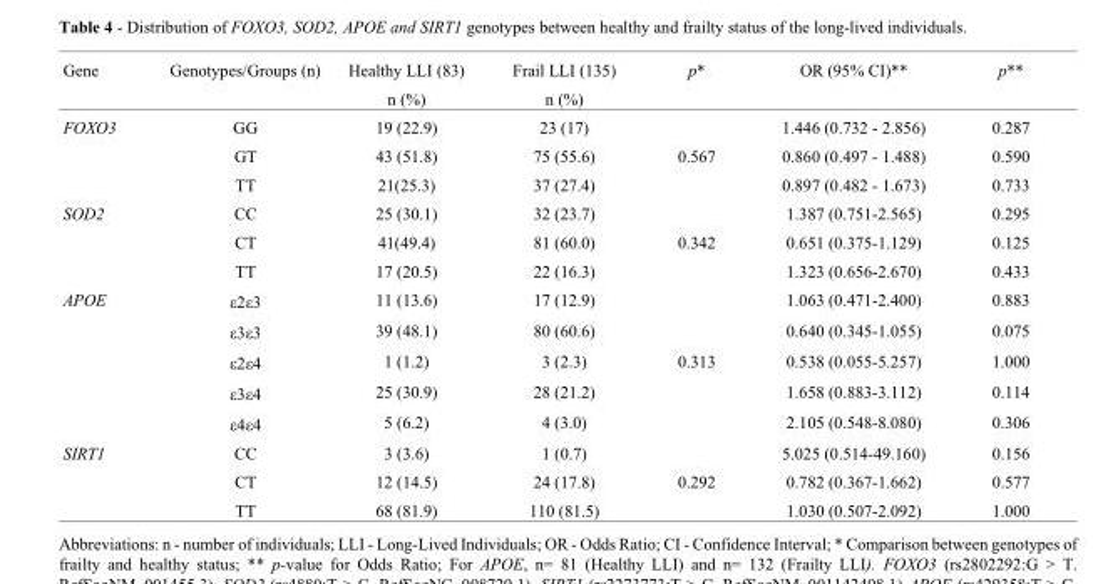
<table><thead><tr><td rowspan="2">Gene</td><td rowspan="2">Genotypes/Groups (n)</td><td rowspan="2">Healthy LLI (83) n (%)</td><td rowspan="2">Frail LLI (135) n (%)</td><td rowspan="2">p*</td><td rowspan="2">OR (95% CI)**</td><td rowspan="2">p**</td></tr><tr></tr></thead><tbody><tr><td rowspan="3">FOXO3</td><td>GG</td><td>19 (22.9)</td><td>23 (17)</td><td></td><td>1.446 (0.732 - 2.856)</td><td>0.287</td></tr><tr><td>GT</td><td>43 (51.8)</td><td>75 (55.6)</td><td>0.567</td><td>0.860 (0.497 - 1.488)</td><td>0.590</td></tr><tr><td>TT</td><td>21(25.3)</td><td>37 (27.4)</td><td></td><td>0.897 (0.482 - 1.673)</td><td>0.733</td></tr><tr><td rowspan="3">SOD2</td><td>CC</td><td>25 (30.1)</td><td>32 (23.7)</td><td></td><td>1.387 (0.751-2.565)</td><td>0.295</td></tr><tr><td>CT</td><td>41(49.4)</td><td>81 (60.0)</td><td>0.342</td><td>0.651 (0.375-1.129)</td><td>0.125</td></tr><tr><td>TT</td><td>17 (20.5)</td><td>22 (16.3)</td><td></td><td>1.323 (0.656-2.670)</td><td>0.433</td></tr><tr><td rowspan="5">APOE</td><td>∊2∊3</td><td>11 (13.6)</td><td>17 (12.9)</td><td></td><td>1.063 (0.471-2.400)</td><td>0.883</td></tr><tr><td>∊3∊3</td><td>39 (48.1)</td><td>80 (60.6)</td><td></td><td>0.640 (0.345-1.055)</td><td>0.075</td></tr><tr><td>∊2∊4</td><td>1 (1.2)</td><td>3 (2.3)</td><td>0.313</td><td>0.538 (0.055-5.257)</td><td>1.000</td></tr><tr><td>∊3∊4</td><td>25 (30.9)</td><td>28 (21.2)</td><td></td><td>1.658 (0.883-3.112)</td><td>0.114</td></tr><tr><td>∊4∊4</td><td>5 (6.2)</td><td>4 (3.0)</td><td></td><td>2.105 (0.548-8.080)</td><td>0.306</td></tr><tr><td rowspan="3">SIRT1</td><td>CC</td><td>3 (3.6)</td><td>1 (0.7)</td><td></td><td>5.025 (0.514-49.160)</td><td>0.156</td></tr><tr><td>CT</td><td>12 (14.5)</td><td>24 (17.8)</td><td>0.292</td><td>0.782 (0.367-1.662)</td><td>0.577</td></tr><tr><td>TT</td><td>68 (81.9)</td><td>110 (81.5)</td><td></td><td>1.030 (0.507-2.092)</td><td>1.000</td></tr></tbody></table>